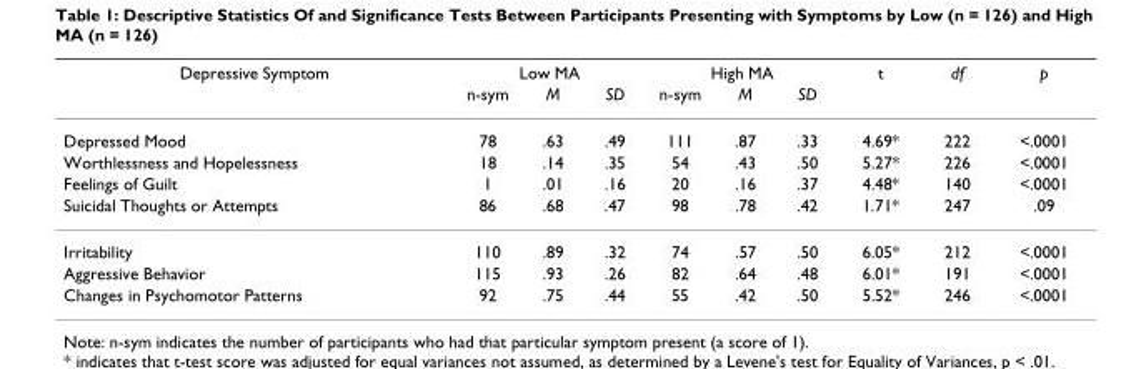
<table><thead><tr><td rowspan="2">Depressive Symptom</td><td colspan="3">Low MA</td><td colspan="3">High MA</td><td rowspan="2">t</td><td rowspan="2">df</td><td rowspan="2">p</td></tr><tr><td>n-sym</td><td>M</td><td>SD</td><td>n-sym</td><td>M</td><td>SD</td></tr></thead><tbody><tr><td>Depressed Mood</td><td>78</td><td>.63</td><td>.49</td><td>111</td><td>.87</td><td>.33</td><td>4.69*</td><td>222</td><td>&lt;.0001</td></tr><tr><td>Worthlessness and Hopelessness</td><td>18</td><td>.14</td><td>.35</td><td>54</td><td>.43</td><td>.50</td><td>5.27*</td><td>226</td><td>&lt;.0001</td></tr><tr><td>Feelings of Guilt</td><td>1</td><td>.01</td><td>.16</td><td>20</td><td>.16</td><td>.37</td><td>4.48*</td><td>140</td><td>&lt;.0001</td></tr><tr><td>Suicidal Thoughts or Attempts</td><td>86</td><td>.68</td><td>.47</td><td>98</td><td>.78</td><td>.42</td><td>1.71*</td><td>247</td><td>.09</td></tr><tr><td>Irritability</td><td>110</td><td>.89</td><td>.32</td><td>74</td><td>.57</td><td>.50</td><td>6.05*</td><td>212</td><td>&lt;.0001</td></tr><tr><td>Aggressive Behavior</td><td>115</td><td>.93</td><td>.26</td><td>82</td><td>.64</td><td>.48</td><td>6.01*</td><td>191</td><td>&lt;.0001</td></tr><tr><td>Changes in Psychomotor Patterns</td><td>92</td><td>.75</td><td>.44</td><td>55</td><td>.42</td><td>.50</td><td>5.52*</td><td>246</td><td>&lt;.0001</td></tr></tbody></table>